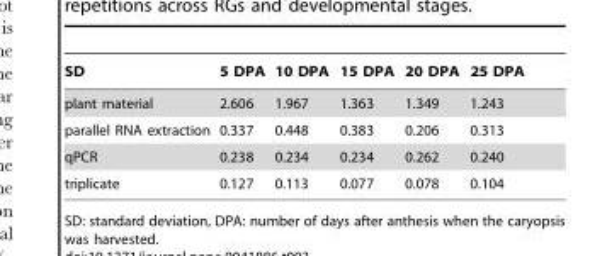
<table><thead><tr><td>SD</td><td>5 DPA</td><td>10 DPA</td><td>15 DPA</td><td>20 DPA</td><td>25 DPA</td></tr></thead><tbody><tr><td>plant material</td><td>2.606</td><td>1.967</td><td>1.363</td><td>1.349</td><td>1.243</td></tr><tr><td>parallel RNA extraction</td><td>0.337</td><td>0.448</td><td>0.383</td><td>0.206</td><td>0.313</td></tr><tr><td>qPCR</td><td>0.238</td><td>0.234</td><td>0.234</td><td>0.262</td><td>0.240</td></tr><tr><td>triplicate</td><td>0.127</td><td>0.113</td><td>0.077</td><td>0.078</td><td>0.104</td></tr></tbody></table>